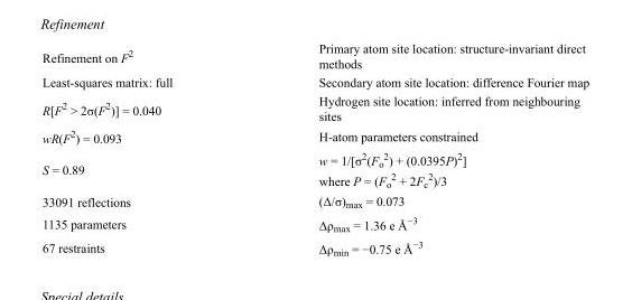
<table><tbody><tr><td>Refinement on F<sup>2</sup></td><td>Primary atom site location: structure-invariant direct methods</td></tr><tr><td>Least-squares matrix: full</td><td>Secondary atom site location: difference Fourier map</td></tr><tr><td>R[F<sup>2</sup> &gt; 2σ(F<sup>2</sup>)] = 0.040</td><td>Hydrogen site location: inferred from neighbouring sites</td></tr><tr><td>wR(F<sup>2</sup>) = 0.093</td><td>H-atom parameters constrained</td></tr><tr><td>S = 0.89</td><td>w = 1/[σ<sup>2</sup>(F<sub>o</sub> <sup>2</sup>) + (0.0395P)<sup>2</sup>] where P = (F<sub>o</sub> <sup>2</sup> + 2F<sub>c</sub> <sup>2</sup>)/3</td></tr><tr><td>33091 reflections</td><td>(Δ/σ)<sub>max</sub> = 0.073</td></tr><tr><td>1135 parameters</td><td>Δρ<sub>max</sub> = 1.36 e Å<sup>−3</sup></td></tr><tr><td>67 restraints</td><td>Δρ<sub>min</sub> = −0.75 e Å<sup>−3</sup></td></tr></tbody></table>